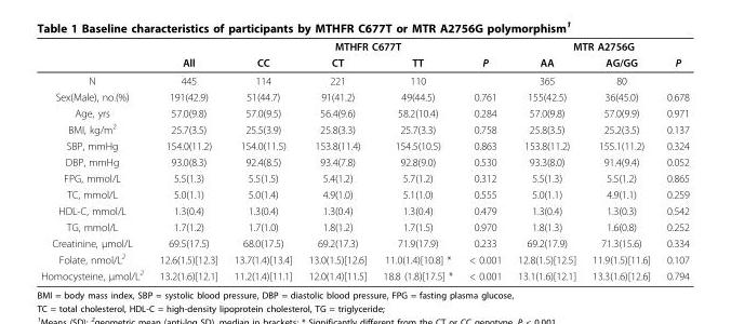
<table><thead><tr><td rowspan="2"></td><td rowspan="2">All</td><td colspan="4">MTHFR C677T</td><td colspan="3">MTR A2756G</td></tr><tr><td>CC</td><td>CT</td><td>TT</td><td>P</td><td>AA</td><td>AG/GG</td><td>P</td></tr></thead><tbody><tr><td>N</td><td>445</td><td>114</td><td>221</td><td>110</td><td></td><td>365</td><td>80</td><td></td></tr><tr><td>Sex(Male), no.(%)</td><td>191(42.9)</td><td>51(44.7)</td><td>91(41.2)</td><td>49(44.5)</td><td>0.761</td><td>155(42.5)</td><td>36(45.0)</td><td>0.678</td></tr><tr><td>Age, yrs</td><td>57.0(9.8)</td><td>57.0(9.5)</td><td>56.4(9.6)</td><td>58.2(10.4)</td><td>0.284</td><td>57.0(9.8)</td><td>57.0(9.9)</td><td>0.971</td></tr><tr><td>BMI, kg/m<sup>2</sup></td><td>25.7(3.5)</td><td>25.5(3.9)</td><td>25.8(3.3)</td><td>25.7(3.3)</td><td>0.758</td><td>25.8(3.5)</td><td>25.2(3.5)</td><td>0.137</td></tr><tr><td>SBP, mmHg</td><td>154.0(11.2)</td><td>154.0(11.5)</td><td>153.8(11.4)</td><td>154.5(10.5)</td><td>0.863</td><td>153.8(11.2)</td><td>155.1(11.2)</td><td>0.324</td></tr><tr><td>DBP, mmHg</td><td>93.0(8.3)</td><td>92.4(8.5)</td><td>93.4(7.8)</td><td>92.8(9.0)</td><td>0.530</td><td>93.3(8.0)</td><td>91.4(9.4)</td><td>0.052</td></tr><tr><td>FPG, mmol/L</td><td>5.5(1.3)</td><td>5.5(1.5)</td><td>5.4(1.2)</td><td>5.7(1.2)</td><td>0.312</td><td>5.5(1.3)</td><td>5.5(1.2)</td><td>0.865</td></tr><tr><td>TC, mmol/L</td><td>5.0(1.1)</td><td>5.0(1.4)</td><td>4.9(1.0)</td><td>5.1(1.0)</td><td>0.555</td><td>5.0(1.1)</td><td>4.9(1.1)</td><td>0.259</td></tr><tr><td>HDL-C, mmol/L</td><td>1.3(0.4)</td><td>1.3(0.4)</td><td>1.3(0.4)</td><td>1.3(0.4)</td><td>0.479</td><td>1.3(0.4)</td><td>1.3(0.3)</td><td>0.542</td></tr><tr><td>TG, mmol/L</td><td>1.7(1.2)</td><td>1.7(1.0)</td><td>1.8(1.2)</td><td>1.7(1.5)</td><td>0.970</td><td>1.8(1.3)</td><td>1.6(0.8)</td><td>0.252</td></tr><tr><td>Creatinine, μmol/L</td><td>69.5(17.5)</td><td>68.0(17.5)</td><td>69.2(17.3)</td><td>71.9(17.9)</td><td>0.233</td><td>69.2(17.9)</td><td>71.3(15.6)</td><td>0.334</td></tr><tr><td>Folate, nmol/L<sup>2</sup></td><td>12.6(1.5)[12.3]</td><td>13.7(1.4)[13.4]</td><td>13.0(1.5)[12.6]</td><td>11.0(1.4)[10.8] *</td><td>&lt; 0.001</td><td>12.8(1.5)[12.5]</td><td>11.9(1.5)[11.6]</td><td>0.107</td></tr><tr><td>Homocysteine, μmol/L<sup>2</sup></td><td>13.2(1.6)[12.1]</td><td>11.2(1.4)[11.1]</td><td>12.0(1.4)[11.5]</td><td>18.8 (1.8)[17.5] *</td><td>&lt; 0.001</td><td>13.1(1.6)[12.1]</td><td>13.3(1.6)[12.6]</td><td>0.794</td></tr></tbody></table>